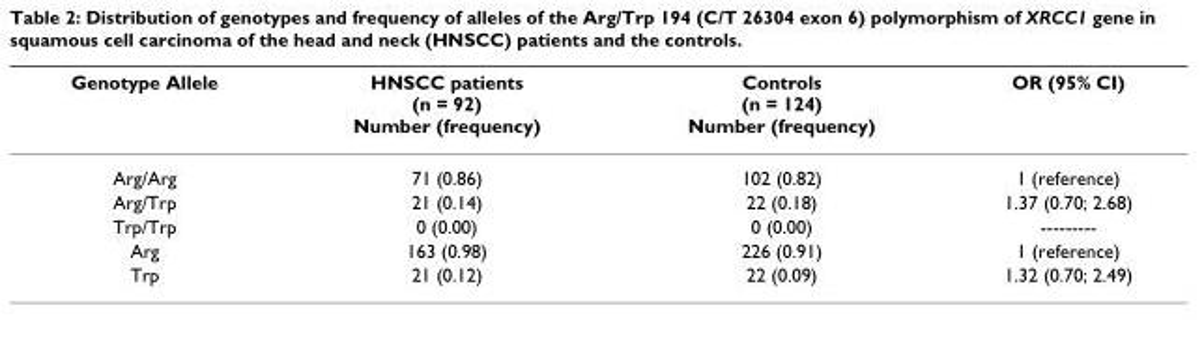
<table><thead><tr><td>Genotype Allele</td><td>HNSCC patients (n = 92) Number (frequency)</td><td>Controls (n = 124) Number (frequency)</td><td>OR (95% CI)</td></tr></thead><tbody><tr><td>Arg/Arg</td><td>71 (0.86)</td><td>102 (0.82)</td><td>1 (reference)</td></tr><tr><td>Arg/Trp</td><td>21 (0.14)</td><td>22 (0.18)</td><td>1.37 (0.70; 2.68)</td></tr><tr><td>Trp/Trp</td><td>0 (0.00)</td><td>0 (0.00)</td><td>---------</td></tr><tr><td>Arg</td><td>163 (0.98)</td><td>226 (0.91)</td><td>1 (reference)</td></tr><tr><td>Trp</td><td>21 (0.12)</td><td>22 (0.09)</td><td>1.32 (0.70; 2.49)</td></tr></tbody></table>